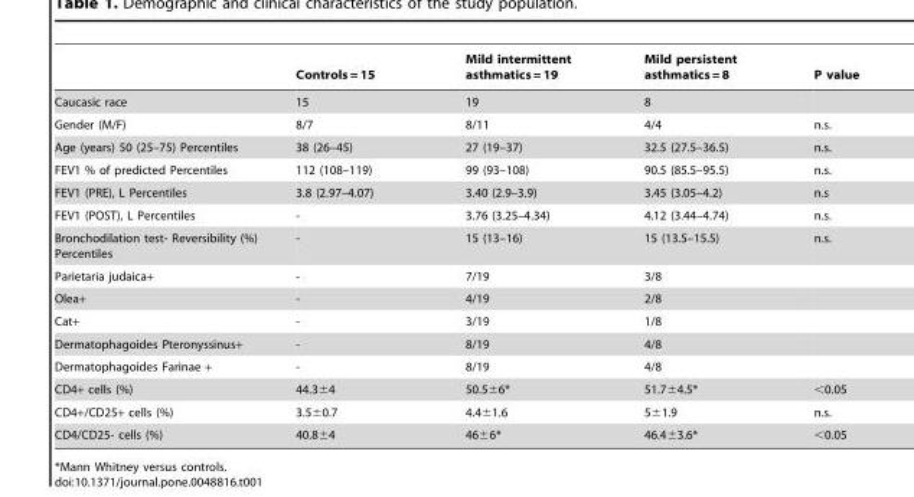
<table><thead><tr><td></td><td>Controls = 15</td><td>Mild intermittent asthmatics = 19</td><td>Mild persistent asthmatics = 8</td><td>P value</td></tr></thead><tbody><tr><td>Caucasic race</td><td>15</td><td>19</td><td>8</td><td></td></tr><tr><td>Gender (M/F)</td><td>8/7</td><td>8/11</td><td>4/4</td><td>n.s.</td></tr><tr><td>Age (years) 50 (25–75) Percentiles</td><td>38 (26–45)</td><td>27 (19–37)</td><td>32.5 (27.5–36.5)</td><td>n.s.</td></tr><tr><td>FEV1 % of predicted Percentiles</td><td>112 (108–119)</td><td>99 (93–108)</td><td>90.5 (85.5–95.5)</td><td>n.s.</td></tr><tr><td>FEV1 (PRE), L Percentiles</td><td>3.8 (2.97–4.07)</td><td>3.40 (2.9–3.9)</td><td>3.45 (3.05–4.2)</td><td>n.s</td></tr><tr><td>FEV1 (POST), L Percentiles</td><td>-</td><td>3.76 (3.25–4.34)</td><td>4.12 (3.44–4.74)</td><td>n.s.</td></tr><tr><td>Bronchodilation test- Reversibility (%) Percentiles</td><td>-</td><td>15 (13–16)</td><td>15 (13.5–15.5)</td><td>n.s.</td></tr><tr><td>Parietaria judaica+</td><td>-</td><td>7/19</td><td>3/8</td><td></td></tr><tr><td>Olea+</td><td>-</td><td>4/19</td><td>2/8</td><td></td></tr><tr><td>Cat+</td><td>-</td><td>3/19</td><td>1/8</td><td></td></tr><tr><td>Dermatophagoides Pteronyssinus+</td><td>-</td><td>8/19</td><td>4/8</td><td></td></tr><tr><td>Dermatophagoides Farinae +</td><td>-</td><td>8/19</td><td>4/8</td><td></td></tr><tr><td>CD4+ cells (%)</td><td>44.3±4</td><td>50.5±6*</td><td>51.7±4.5*</td><td>&lt;0.05</td></tr><tr><td>CD4+/CD25+ cells (%)</td><td>3.5±0.7</td><td>4.4±1.6</td><td>5±1.9</td><td>n.s.</td></tr><tr><td>CD4/CD25- cells (%)</td><td>40.8±4</td><td>46±6*</td><td>46.4±3.6*</td><td>&lt;0.05</td></tr></tbody></table>